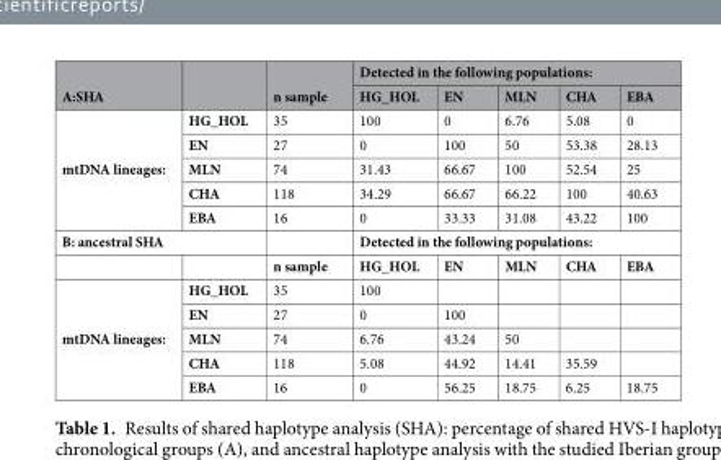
<table><thead><tr><td rowspan="2">A:SHA</td><td rowspan="2"></td><td rowspan="2">n sample</td><td colspan="5">Detected in the following populations:</td></tr><tr><td>HG_HOL</td><td>EN</td><td>MLN</td><td>CHA</td><td>EBA</td></tr></thead><tbody><tr><td rowspan="5">mtDNA lineages:</td><td>HG_HOL</td><td>35</td><td>100</td><td>0</td><td>6.76</td><td>5.08</td><td>0</td></tr><tr><td>EN</td><td>27</td><td>0</td><td>100</td><td>50</td><td>53.38</td><td>28.13</td></tr><tr><td>MLN</td><td>74</td><td>31.43</td><td>66.67</td><td>100</td><td>52.54</td><td>25</td></tr><tr><td>CHA</td><td>118</td><td>34.29</td><td>66.67</td><td>66.22</td><td>100</td><td>40.63</td></tr><tr><td>EBA</td><td>16</td><td>0</td><td>33.33</td><td>31.08</td><td>43.22</td><td>100</td></tr><tr><td colspan="2">B: ancestral SHA</td><td></td><td colspan="5">Detected in the following populations:</td></tr><tr><td></td><td></td><td>n sample</td><td>HG_HOL</td><td>EN</td><td>MLN</td><td>CHA</td><td>EBA</td></tr><tr><td rowspan="5">mtDNA lineages:</td><td>HG_HOL</td><td>35</td><td>100</td><td></td><td></td><td></td><td></td></tr><tr><td>EN</td><td>27</td><td>0</td><td>100</td><td></td><td></td><td></td></tr><tr><td>MLN</td><td>74</td><td>6.76</td><td>43.24</td><td>50</td><td></td><td></td></tr><tr><td>CHA</td><td>118</td><td>5.08</td><td>44.92</td><td>14.41</td><td>35.59</td><td></td></tr><tr><td>EBA</td><td>16</td><td>0</td><td>56.25</td><td>18.75</td><td>6.25</td><td>18.75</td></tr></tbody></table>